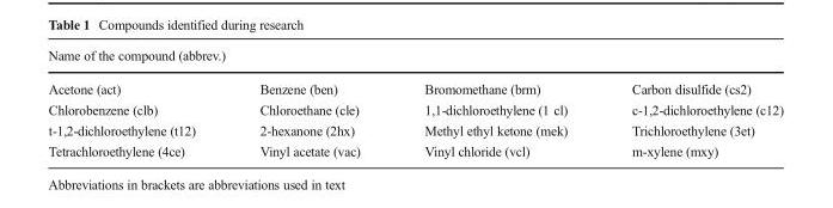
<table><thead><tr><td colspan="4">Name of the compound (abbrev.)</td></tr><tr><td>Acetone (act)</td><td>Benzene (ben)</td><td>Bromomethane (brm)</td><td>Carbon disulfide (cs2)</td></tr></thead><tbody><tr><td>Chlorobenzene (clb)</td><td>Chloroethane (cle)</td><td>1,1-dichloroethylene (1 cl)</td><td>c-1,2-dichloroethylene (c12)</td></tr><tr><td>t-1,2-dichloroethylene (t12)</td><td>2-hexanone (2hx)</td><td>Methyl ethyl ketone (mek)</td><td>Trichloroethylene (3et)</td></tr><tr><td>Tetrachloroethylene (4ce)</td><td>Vinyl acetate (vac)</td><td>Vinyl chloride (vcl)</td><td>m-xylene (mxy)</td></tr></tbody></table>